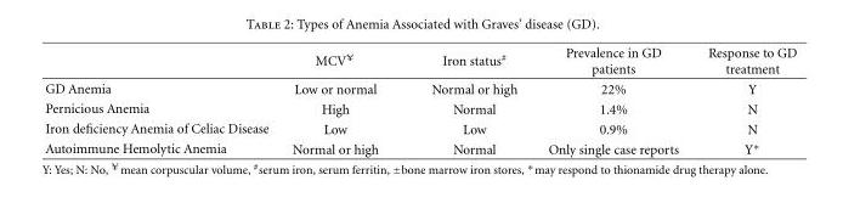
<table><thead><tr><td></td><td>MCV<sup>¥</sup></td><td>Iron status<sup>#</sup></td><td>Prevalence in GD patients</td><td>Response to GD treatment</td></tr></thead><tbody><tr><td>GD Anemia</td><td>Low or normal</td><td>Normal or high</td><td>22%</td><td>Y</td></tr><tr><td>Pernicious Anemia</td><td>High</td><td>Normal</td><td>1.4%</td><td>N</td></tr><tr><td>Iron deficiency Anemia of Celiac Disease</td><td>Low</td><td>Low</td><td>0.9%</td><td>N</td></tr><tr><td>Autoimmune Hemolytic Anemia</td><td>Normal or high</td><td>Normal</td><td>Only single case reports</td><td>Y∗</td></tr></tbody></table>